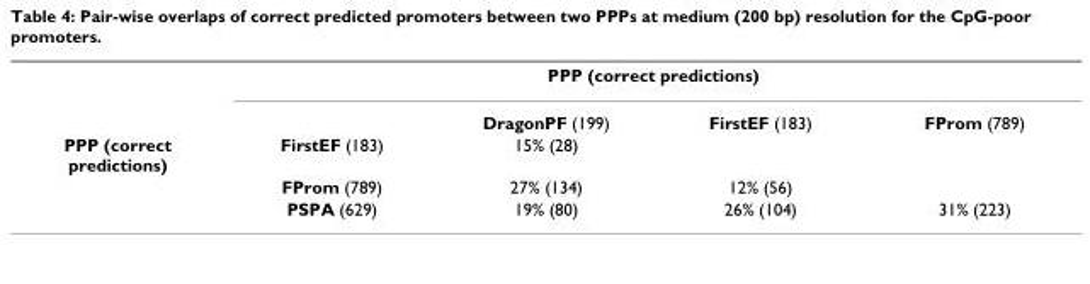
<table><thead><tr><td rowspan="2"></td><td colspan="4">PPP (correct predictions)</td></tr><tr><td></td><td>DragonPF (199)</td><td>FirstEF (183)</td><td>FProm (789)</td></tr></thead><tbody><tr><td rowspan="3">PPP (correct predictions)</td><td>FirstEF (183)</td><td>15% (28)</td><td></td><td></td></tr><tr><td>FProm (789)</td><td>27% (134)</td><td>12% (56)</td><td></td></tr><tr><td>PSPA (629)</td><td>19% (80)</td><td>26% (104)</td><td>31% (223)</td></tr></tbody></table>